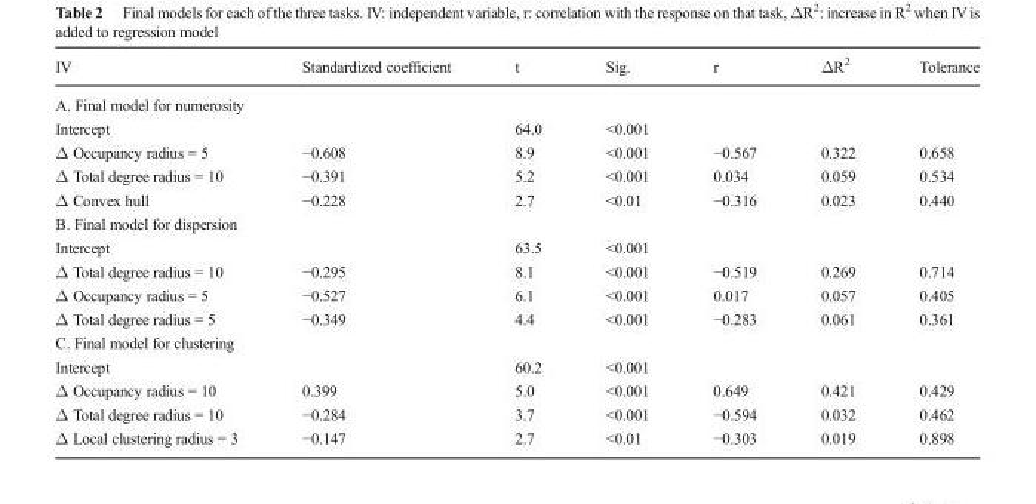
<table><thead><tr><td>IV</td><td>Standardized coefficient</td><td>t</td><td>Sig.</td><td>r</td><td>ΔR<sup>2</sup></td><td>Tolerance</td></tr></thead><tbody><tr><td colspan="7">A. Final model for numerosity</td></tr><tr><td>Intercept</td><td></td><td>64.0</td><td>&lt;0.001</td><td></td><td></td><td></td></tr><tr><td>Δ Occupancy radius = 5</td><td>−0.608</td><td>8.9</td><td>&lt;0.001</td><td>−0.567</td><td>0.322</td><td>0.658</td></tr><tr><td>Δ Total degree radius = 10</td><td>−0.391</td><td>5.2</td><td>&lt;0.001</td><td>0.034</td><td>0.059</td><td>0.534</td></tr><tr><td>Δ Convex hull</td><td>−0.228</td><td>2.7</td><td>&lt;0.01</td><td>−0.316</td><td>0.023</td><td>0.440</td></tr><tr><td colspan="7">B. Final model for dispersion</td></tr><tr><td>Intercept</td><td></td><td>63.5</td><td>&lt;0.001</td><td></td><td></td><td></td></tr><tr><td>Δ Total degree radius = 10</td><td>−0.295</td><td>8.1</td><td>&lt;0.001</td><td>−0.519</td><td>0.269</td><td>0.714</td></tr><tr><td>Δ Occupancy radius = 5</td><td>−0.527</td><td>6.1</td><td>&lt;0.001</td><td>0.017</td><td>0.057</td><td>0.405</td></tr><tr><td>Δ Total degree radius = 5</td><td>−0.349</td><td>4.4</td><td>&lt;0.001</td><td>−0.283</td><td>0.061</td><td>0.361</td></tr><tr><td colspan="7">C. Final model for clustering</td></tr><tr><td>Intercept</td><td></td><td>60.2</td><td>&lt;0.001</td><td></td><td></td><td></td></tr><tr><td>Δ Occupancy radius = 10</td><td>0.399</td><td>5.0</td><td>&lt;0.001</td><td>0.649</td><td>0.421</td><td>0.429</td></tr><tr><td>Δ Total degree radius = 10</td><td>−0.284</td><td>3.7</td><td>&lt;0.001</td><td>−0.594</td><td>0.032</td><td>0.462</td></tr><tr><td>Δ Local clustering radius = 3</td><td>−0.147</td><td>2.7</td><td>&lt;0.01</td><td>−0.303</td><td>0.019</td><td>0.898</td></tr></tbody></table>